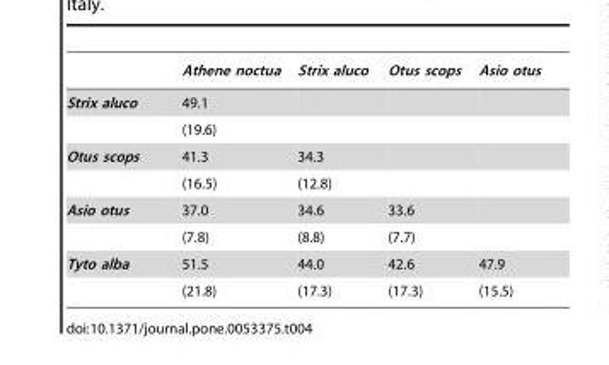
<table><thead><tr><td></td><td>Athene noctua</td><td>Strix aluco</td><td>Otus scops</td><td>Asio otus</td></tr></thead><tbody><tr><td rowspan="2">Strix aluco</td><td>49.1</td><td></td><td></td><td></td></tr><tr><td>(19.6)</td><td></td><td></td><td></td></tr><tr><td rowspan="2">Otus scops</td><td>41.3</td><td>34.3</td><td></td><td></td></tr><tr><td>(16.5)</td><td>(12.8)</td><td></td><td></td></tr><tr><td rowspan="2">Asio otus</td><td>37.0</td><td>34.6</td><td>33.6</td><td></td></tr><tr><td>(7.8)</td><td>(8.8)</td><td>(7.7)</td><td></td></tr><tr><td rowspan="2">Tyto alba</td><td>51.5</td><td>44.0</td><td>42.6</td><td>47.9</td></tr><tr><td>(21.8)</td><td>(17.3)</td><td>(17.3)</td><td>(15.5)</td></tr></tbody></table>